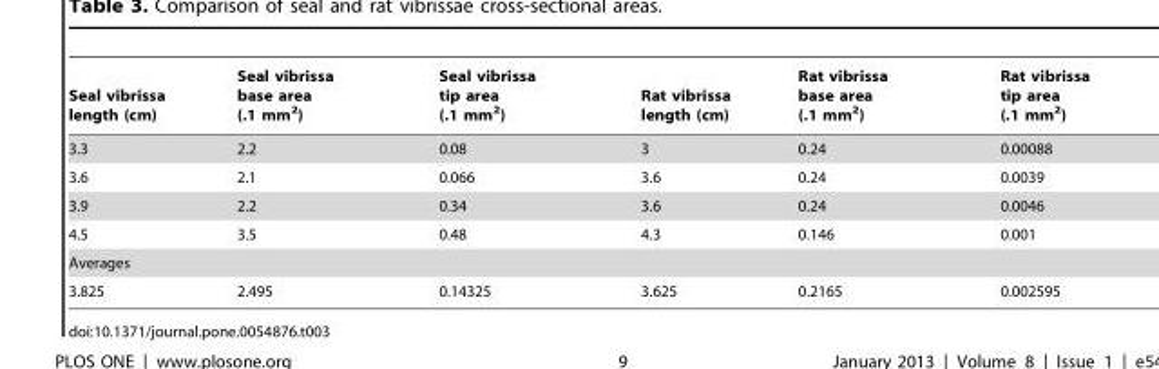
<table><thead><tr><td>Seal vibrissa length (cm)</td><td>Seal vibrissa base area (.1 mm<sup>2</sup>)</td><td>Seal vibrissa tip area (.1 mm<sup>2</sup>)</td><td>Rat vibrissa length (cm)</td><td>Rat vibrissa base area (.1 mm<sup>2</sup>)</td><td>Rat vibrissa tip area (.1 mm<sup>2</sup>)</td></tr></thead><tbody><tr><td>3.3</td><td>2.2</td><td>0.08</td><td>3</td><td>0.24</td><td>0.00088</td></tr><tr><td>3.6</td><td>2.1</td><td>0.066</td><td>3.6</td><td>0.24</td><td>0.0039</td></tr><tr><td>3.9</td><td>2.2</td><td>0.34</td><td>3.6</td><td>0.24</td><td>0.0046</td></tr><tr><td>4.5</td><td>3.5</td><td>0.48</td><td>4.3</td><td>0.146</td><td>0.001</td></tr><tr><td colspan="6">Averages</td></tr><tr><td>3.825</td><td>2.495</td><td>0.14325</td><td>3.625</td><td>0.2165</td><td>0.002595</td></tr></tbody></table>